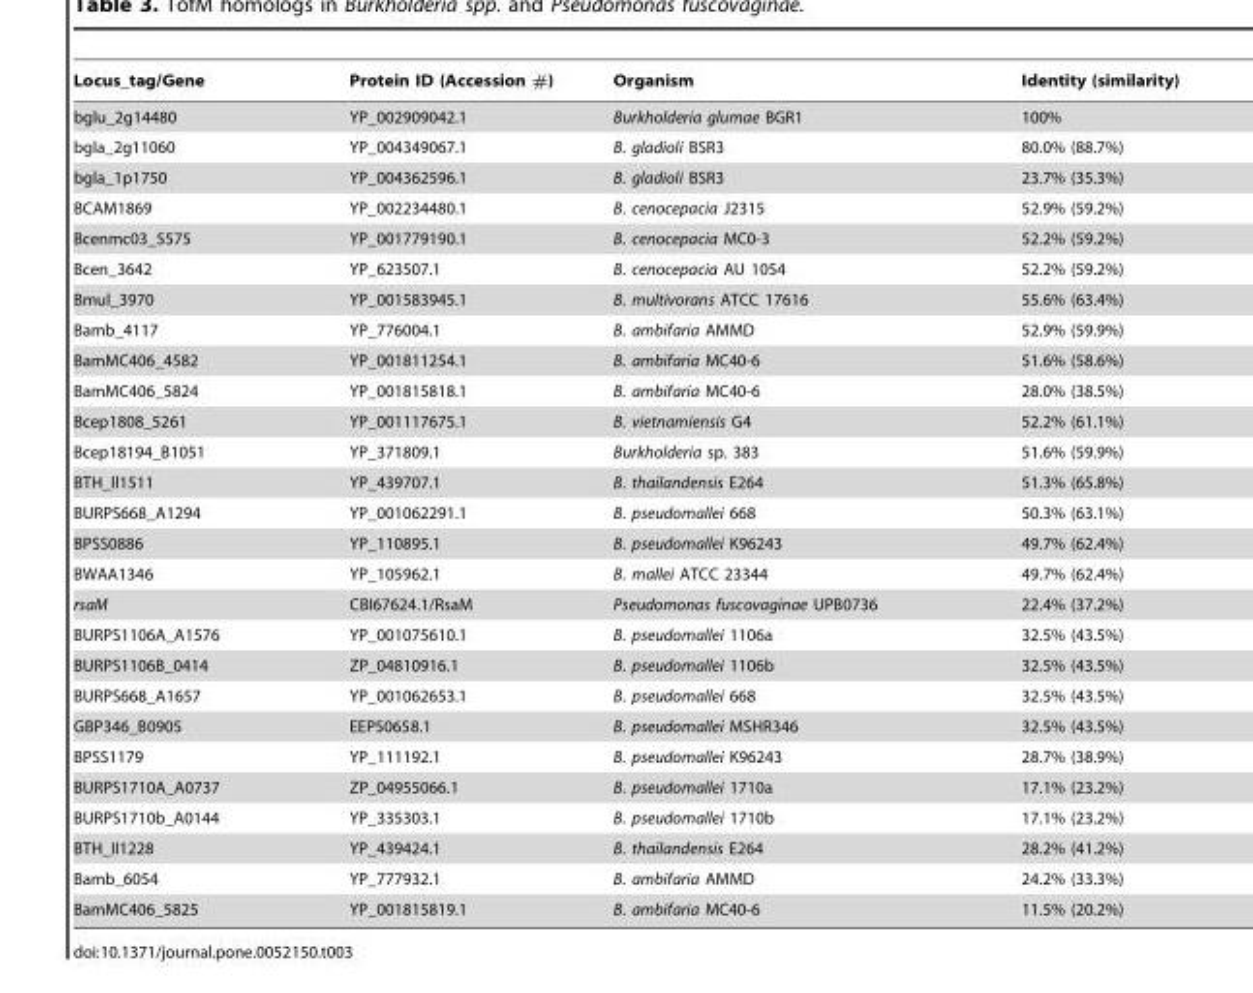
<table><thead><tr><td>Locus_tag/Gene</td><td>Protein ID (Accession #)</td><td>Organism</td><td>Identity (similarity)</td></tr></thead><tbody><tr><td>bglu_2g14480</td><td>YP_002909042.1</td><td>Burkholderia glumae BGR1</td><td>100%</td></tr><tr><td>bgla_2g11060</td><td>YP_004349067.1</td><td>B. gladioli BSR3</td><td>80.0% (88.7%)</td></tr><tr><td>bgla_1p1750</td><td>YP_004362596.1</td><td>B. gladioli BSR3</td><td>23.7% (35.3%)</td></tr><tr><td>BCAM1869</td><td>YP_002234480.1</td><td>B. cenocepacia J2315</td><td>52.9% (59.2%)</td></tr><tr><td>Bcenmc03_5575</td><td>YP_001779190.1</td><td>B. cenocepacia MC0-3</td><td>52.2% (59.2%)</td></tr><tr><td>Bcen_3642</td><td>YP_623507.1</td><td>B. cenocepacia AU 1054</td><td>52.2% (59.2%)</td></tr><tr><td>Bmul_3970</td><td>YP_001583945.1</td><td>B. multivorans ATCC 17616</td><td>55.6% (63.4%)</td></tr><tr><td>Bamb_4117</td><td>YP_776004.1</td><td>B. ambifaria AMMD</td><td>52.9% (59.9%)</td></tr><tr><td>BamMC406_4582</td><td>YP_001811254.1</td><td>B. ambifaria MC40-6</td><td>51.6% (58.6%)</td></tr><tr><td>BamMC406_5824</td><td>YP_001815818.1</td><td>B. ambifaria MC40-6</td><td>28.0% (38.5%)</td></tr><tr><td>Bcep1808_5261</td><td>YP_001117675.1</td><td>B. vietnamiensis G4</td><td>52.2% (61.1%)</td></tr><tr><td>Bcep18194_B1051</td><td>YP_371809.1</td><td>Burkholderia sp. 383</td><td>51.6% (59.9%)</td></tr><tr><td>BTH_ll1511</td><td>YP_439707.1</td><td>B. thailandensis E264</td><td>51.3% (65.8%)</td></tr><tr><td>BURPS668_A1294</td><td>YP_001062291.1</td><td>B. pseudomallei 668</td><td>50.3% (63.1%)</td></tr><tr><td>BPSS0886</td><td>YP_110895.1</td><td>B. pseudomallei K96243</td><td>49.7% (62.4%)</td></tr><tr><td>BWAA1346</td><td>YP_105962.1</td><td>B. mallei ATCC 23344</td><td>49.7% (62.4%)</td></tr><tr><td>rsaM</td><td>CBI67624.1/RsaM</td><td>Pseudomonas fuscovaginae UPB0736</td><td>22.4% (37.2%)</td></tr><tr><td>BURPS1106A_A1576</td><td>YP_001075610.1</td><td>B. pseudomallei 1106a</td><td>32.5% (43.5%)</td></tr><tr><td>BURPS1106B_0414</td><td>ZP_04810916.1</td><td>B. pseudomallei 1106b</td><td>32.5% (43.5%)</td></tr><tr><td>BURPS668_A1657</td><td>YP_001062653.1</td><td>B. pseudomallei 668</td><td>32.5% (43.5%)</td></tr><tr><td>GBP346_B0905</td><td>EEP50658.1</td><td>B. pseudomallei MSHR346</td><td>32.5% (43.5%)</td></tr><tr><td>BPSS1179</td><td>YP_111192.1</td><td>B. pseudomallei K96243</td><td>28.7% (38.9%)</td></tr><tr><td>BURPS1710A_A0737</td><td>ZP_04955066.1</td><td>B. pseudomallei 1710a</td><td>17.1% (23.2%)</td></tr><tr><td>BURPS1710b_A0144</td><td>YP_335303.1</td><td>B. pseudomallei 1710b</td><td>17.1% (23.2%)</td></tr><tr><td>BTH_II1228</td><td>YP_439424.1</td><td>B. thailandensis E264</td><td>28.2% (41.2%)</td></tr><tr><td>Bamb_6054</td><td>YP_777932.1</td><td>B. ambifaria AMMD</td><td>24.2% (33.3%)</td></tr><tr><td>BamMC406_5825</td><td>YP_001815819.1</td><td>B. ambifaria MC40-6</td><td>11.5% (20.2%)</td></tr></tbody></table>